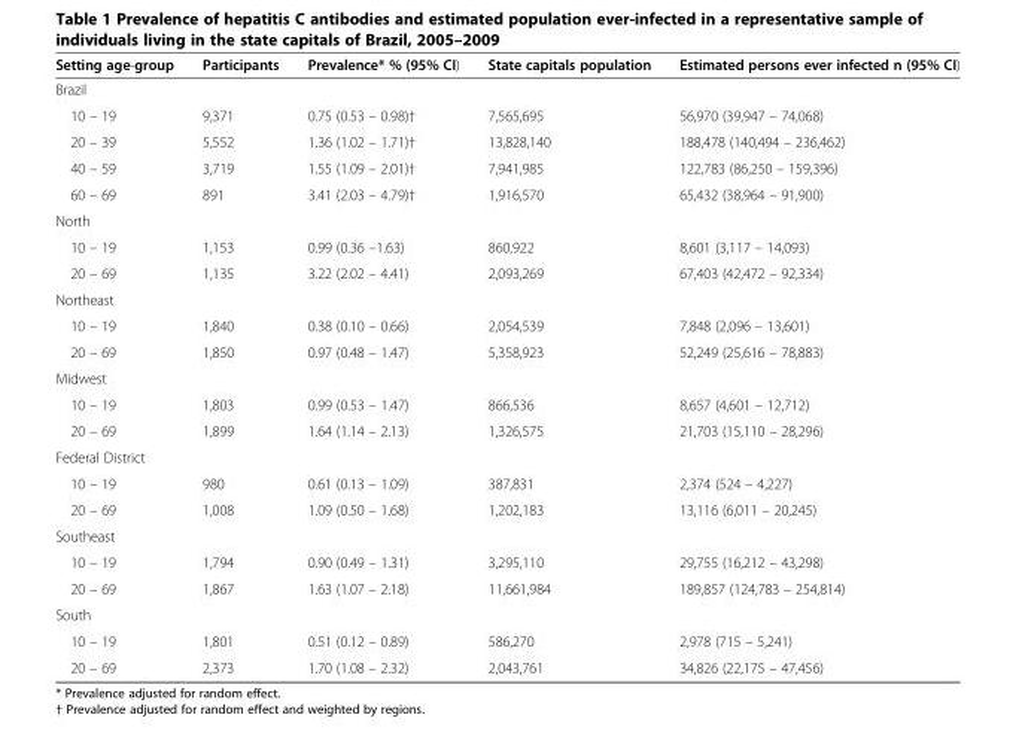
<table><thead><tr><td>Setting age-group</td><td>Participants</td><td>Prevalence* % (95% CI)</td><td>State capitals population</td><td>Estimated persons ever infected n (95% CI)</td></tr></thead><tbody><tr><td colspan="5">Brazil</td></tr><tr><td>10 – 19</td><td>9,371</td><td>0.75 (0.53 – 0.98)†</td><td>7,565,695</td><td>56,970 (39,947 – 74,068)</td></tr><tr><td>20 – 39</td><td>5,552</td><td>1.36 (1.02 – 1.71)†</td><td>13,828,140</td><td>188,478 (140,494 – 236,462)</td></tr><tr><td>40 – 59</td><td>3,719</td><td>1.55 (1.09 – 2.01)†</td><td>7,941,985</td><td>122,783 (86,250 – 159,396)</td></tr><tr><td>60 – 69</td><td>891</td><td>3.41 (2.03 – 4.79)†</td><td>1,916,570</td><td>65,432 (38,964 – 91,900)</td></tr><tr><td colspan="5">North</td></tr><tr><td>10 – 19</td><td>1,153</td><td>0.99 (0.36 –1.63)</td><td>860,922</td><td>8,601 (3,117 – 14,093)</td></tr><tr><td>20 – 69</td><td>1,135</td><td>3.22 (2.02 – 4.41)</td><td>2,093,269</td><td>67,403 (42,472 – 92,334)</td></tr><tr><td colspan="5">Northeast</td></tr><tr><td>10 – 19</td><td>1,840</td><td>0.38 (0.10 – 0.66)</td><td>2,054,539</td><td>7,848 (2,096 – 13,601)</td></tr><tr><td>20 – 69</td><td>1,850</td><td>0.97 (0.48 – 1.47)</td><td>5,358,923</td><td>52,249 (25,616 – 78,883)</td></tr><tr><td colspan="5">Midwest</td></tr><tr><td>10 – 19</td><td>1,803</td><td>0.99 (0.53 – 1.47)</td><td>866,536</td><td>8,657 (4,601 – 12,712)</td></tr><tr><td>20 – 69</td><td>1,899</td><td>1.64 (1.14 – 2.13)</td><td>1,326,575</td><td>21,703 (15,110 – 28,296)</td></tr><tr><td colspan="5">Federal District</td></tr><tr><td>10 – 19</td><td>980</td><td>0.61 (0.13 – 1.09)</td><td>387,831</td><td>2,374 (524 – 4,227)</td></tr><tr><td>20 – 69</td><td>1,008</td><td>1.09 (0.50 – 1.68)</td><td>1,202,183</td><td>13,116 (6,011 – 20,245)</td></tr><tr><td colspan="5">Southeast</td></tr><tr><td>10 – 19</td><td>1,794</td><td>0.90 (0.49 – 1.31)</td><td>3,295,110</td><td>29,755 (16,212 – 43,298)</td></tr><tr><td>20 – 69</td><td>1,867</td><td>1.63 (1.07 – 2.18)</td><td>11,661,984</td><td>189,857 (124,783 – 254,814)</td></tr><tr><td colspan="5">South</td></tr><tr><td>10 – 19</td><td>1,801</td><td>0.51 (0.12 – 0.89)</td><td>586,270</td><td>2,978 (715 – 5,241)</td></tr><tr><td>20 – 69</td><td>2,373</td><td>1.70 (1.08 – 2.32)</td><td>2,043,761</td><td>34,826 (22,175 – 47,456)</td></tr></tbody></table>